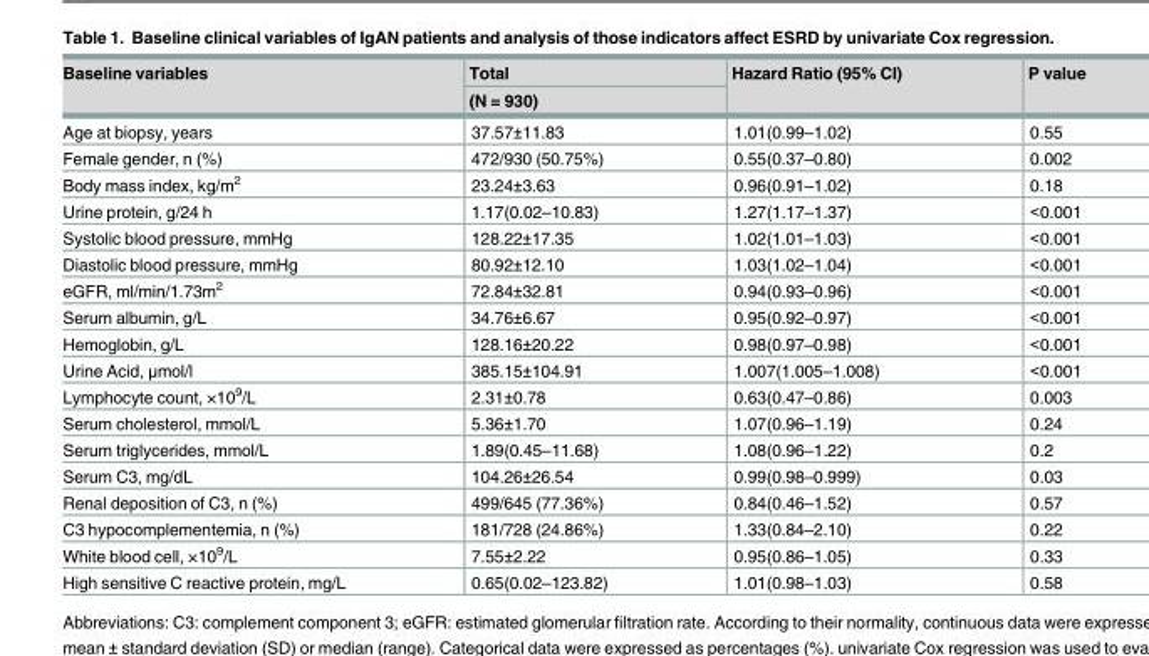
<table><thead><tr><td rowspan="2">Baseline variables</td><td rowspan="2">Total (N = 930)</td><td rowspan="2">Hazard Ratio (95% CI)</td><td rowspan="2">P value</td></tr><tr></tr></thead><tbody><tr><td>Age at biopsy, years</td><td>37.57±11.83</td><td>1.01(0.99–1.02)</td><td>0.55</td></tr><tr><td>Female gender, n (%)</td><td>472/930 (50.75%)</td><td>0.55(0.37–0.80)</td><td>0.002</td></tr><tr><td>Body mass index, kg/m<sup>2</sup></td><td>23.24±3.63</td><td>0.96(0.91–1.02)</td><td>0.18</td></tr><tr><td>Urine protein, g/24 h</td><td>1.17(0.02–10.83)</td><td>1.27(1.17–1.37)</td><td>&lt;0.001</td></tr><tr><td>Systolic blood pressure, mmHg</td><td>128.22±17.35</td><td>1.02(1.01–1.03)</td><td>&lt;0.001</td></tr><tr><td>Diastolic blood pressure, mmHg</td><td>80.92±12.10</td><td>1.03(1.02–1.04)</td><td>&lt;0.001</td></tr><tr><td>eGFR, ml/min/1.73m<sup>2</sup></td><td>72.84±32.81</td><td>0.94(0.93–0.96)</td><td>&lt;0.001</td></tr><tr><td>Serum albumin, g/L</td><td>34.76±6.67</td><td>0.95(0.92–0.97)</td><td>&lt;0.001</td></tr><tr><td>Hemoglobin, g/L</td><td>128.16±20.22</td><td>0.98(0.97–0.98)</td><td>&lt;0.001</td></tr><tr><td>Urine Acid, μmol/l</td><td>385.15±104.91</td><td>1.007(1.005–1.008)</td><td>&lt;0.001</td></tr><tr><td>Lymphocyte count, ×10<sup>9</sup>/L</td><td>2.31±0.78</td><td>0.63(0.47–0.86)</td><td>0.003</td></tr><tr><td>Serum cholesterol, mmol/L</td><td>5.36±1.70</td><td>1.07(0.96–1.19)</td><td>0.24</td></tr><tr><td>Serum triglycerides, mmol/L</td><td>1.89(0.45–11.68)</td><td>1.08(0.96–1.22)</td><td>0.2</td></tr><tr><td>Serum C3, mg/dL</td><td>104.26±26.54</td><td>0.99(0.98–0.999)</td><td>0.03</td></tr><tr><td>Renal deposition of C3, n (%)</td><td>499/645 (77.36%)</td><td>0.84(0.46–1.52)</td><td>0.57</td></tr><tr><td>C3 hypocomplementemia, n (%)</td><td>181/728 (24.86%)</td><td>1.33(0.84–2.10)</td><td>0.22</td></tr><tr><td>White blood cell, ×10<sup>9</sup>/L</td><td>7.55±2.22</td><td>0.95(0.86–1.05)</td><td>0.33</td></tr><tr><td>High sensitive C reactive protein, mg/L</td><td>0.65(0.02–123.82)</td><td>1.01(0.98–1.03)</td><td>0.58</td></tr></tbody></table>